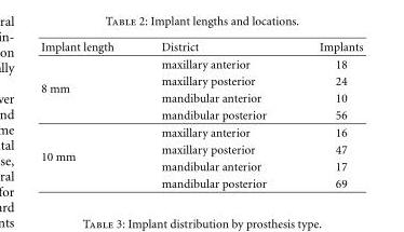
<table><thead><tr><td>Implant length</td><td>District</td><td>Implants</td></tr></thead><tbody><tr><td rowspan="4">8 mm</td><td>maxillary anterior</td><td>18</td></tr><tr><td>maxillary posterior</td><td>24</td></tr><tr><td>mandibular anterior</td><td>10</td></tr><tr><td>mandibular posterior</td><td>56</td></tr><tr><td rowspan="4">10 mm</td><td>maxillary anterior</td><td>16</td></tr><tr><td>maxillary posterior</td><td>47</td></tr><tr><td>mandibular anterior</td><td>17</td></tr><tr><td>mandibular posterior</td><td>69</td></tr></tbody></table>